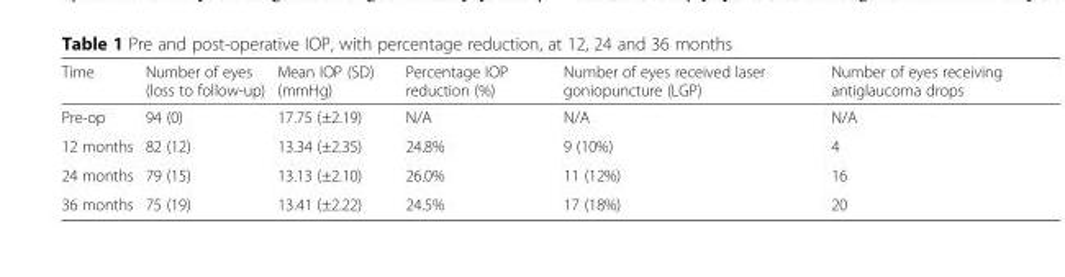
<table><thead><tr><td>Time</td><td>Number of eyes (loss to follow-up)</td><td>Mean IOP (SD) (mmHg)</td><td>Percentage IOP reduction (%)</td><td>Number of eyes received laser goniopuncture (LGP)</td><td>Number of eyes receiving antiglaucoma drops</td></tr></thead><tbody><tr><td>Pre-op</td><td>94 (0)</td><td>17.75 (±2.19)</td><td>N/A</td><td>N/A</td><td>N/A</td></tr><tr><td>12 months</td><td>82 (12)</td><td>13.34 (±2.35)</td><td>24.8%</td><td>9 (10%)</td><td>4</td></tr><tr><td>24 months</td><td>79 (15)</td><td>13.13 (±2.10)</td><td>26.0%</td><td>11 (12%)</td><td>16</td></tr><tr><td>36 months</td><td>75 (19)</td><td>13.41 (±2.22)</td><td>24.5%</td><td>17 (18%)</td><td>20</td></tr></tbody></table>